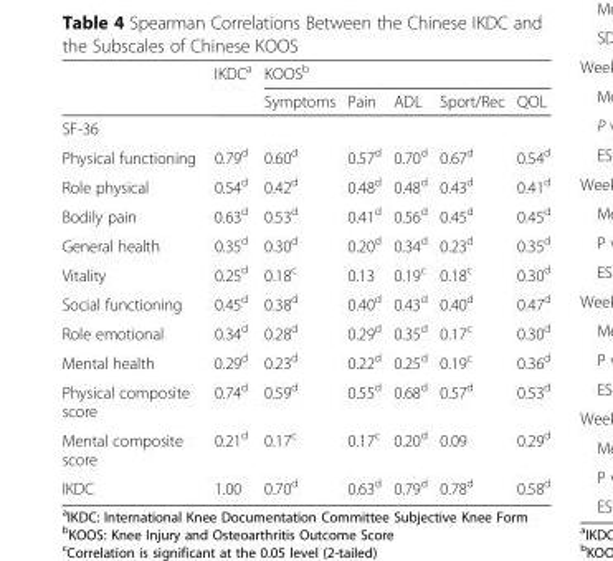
<table><thead><tr><td rowspan="2"></td><td rowspan="2">IKDC<sup>a</sup></td><td colspan="5">KOOS<sup>b</sup></td></tr><tr><td>Symptoms</td><td>Pain</td><td>ADL</td><td>Sport/Rec</td><td>QOL</td></tr></thead><tbody><tr><td colspan="7">SF-36</td></tr><tr><td>Physical functioning</td><td>0.79<sup>d</sup></td><td>0.60<sup>d</sup></td><td>0.57<sup>d</sup></td><td>0.70<sup>d</sup></td><td>0.67<sup>d</sup></td><td>0.54<sup>d</sup></td></tr><tr><td>Role physical</td><td>0.54<sup>d</sup></td><td>0.42<sup>d</sup></td><td>0.48<sup>d</sup></td><td>0.48<sup>d</sup></td><td>0.43<sup>d</sup></td><td>0.41<sup>d</sup></td></tr><tr><td>Bodily pain</td><td>0.63<sup>d</sup></td><td>0.53<sup>d</sup></td><td>0.41<sup>d</sup></td><td>0.56<sup>d</sup></td><td>0.45<sup>d</sup></td><td>0.45<sup>d</sup></td></tr><tr><td>General health</td><td>0.35<sup>d</sup></td><td>0.30<sup>d</sup></td><td>0.20<sup>d</sup></td><td>0.34<sup>d</sup></td><td>0.23<sup>d</sup></td><td>0.35<sup>d</sup></td></tr><tr><td>Vitality</td><td>0.25<sup>d</sup></td><td>0.18<sup>c</sup></td><td>0.13</td><td>0.19<sup>c</sup></td><td>0.18<sup>c</sup></td><td>0.30<sup>d</sup></td></tr><tr><td>Social functioning</td><td>0.45<sup>d</sup></td><td>0.38<sup>d</sup></td><td>0.40<sup>d</sup></td><td>0.43<sup>d</sup></td><td>0.40<sup>d</sup></td><td>0.47<sup>d</sup></td></tr><tr><td>Role emotional</td><td>0.34<sup>d</sup></td><td>0.28<sup>d</sup></td><td>0.29<sup>d</sup></td><td>0.35<sup>d</sup></td><td>0.17<sup>c</sup></td><td>0.30<sup>d</sup></td></tr><tr><td>Mental health</td><td>0.29<sup>d</sup></td><td>0.23<sup>d</sup></td><td>0.22<sup>d</sup></td><td>0.25<sup>d</sup></td><td>0.19<sup>c</sup></td><td>0.36<sup>d</sup></td></tr><tr><td>Physical composite score</td><td>0.74<sup>d</sup></td><td>0.59<sup>d</sup></td><td>0.55<sup>d</sup></td><td>0.68<sup>d</sup></td><td>0.57<sup>d</sup></td><td>0.53<sup>d</sup></td></tr><tr><td>Mental composite score</td><td>0.21<sup>d</sup></td><td>0.17<sup>c</sup></td><td>0.17<sup>c</sup></td><td>0.20<sup>d</sup></td><td>0.09</td><td>0.29<sup>d</sup></td></tr><tr><td>IKDC</td><td>1.00</td><td>0.70<sup>d</sup></td><td>0.63<sup>d</sup></td><td>0.79<sup>d</sup></td><td>0.78<sup>d</sup></td><td>0.58<sup>d</sup></td></tr></tbody></table>